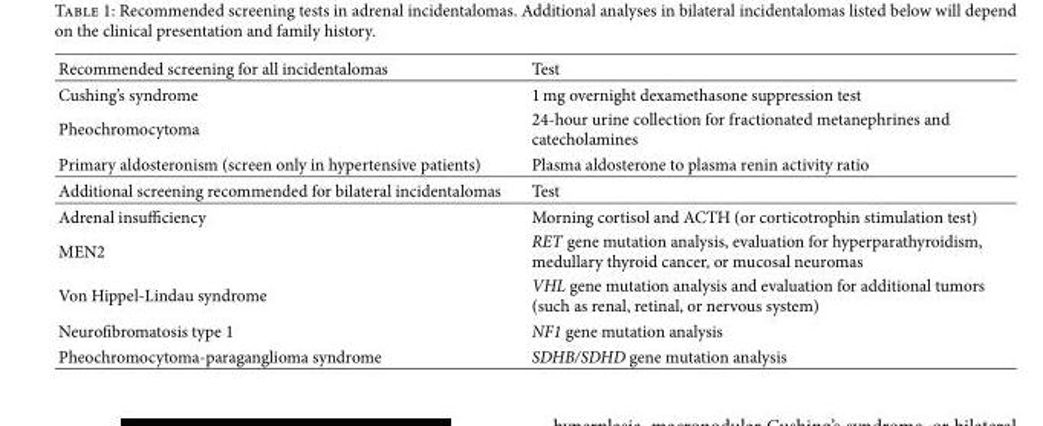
<table><thead><tr><td>Recommended screening for all incidentalomas</td><td>Test</td></tr></thead><tbody><tr><td>Cushing’s syndrome</td><td>1 mg overnight dexamethasone suppression test</td></tr><tr><td>Pheochromocytoma</td><td>24-hour urine collection for fractionated metanephrines and catecholamines</td></tr><tr><td>Primary aldosteronism (screen only in hypertensive patients)</td><td>Plasma aldosterone to plasma renin activity ratio</td></tr><tr><td>Additional screening recommended for bilateral incidentalomas</td><td>Test</td></tr><tr><td>Adrenal insufficiency</td><td>Morning cortisol and ACTH (or corticotrophin stimulation test)</td></tr><tr><td>MEN2</td><td>RET gene mutation analysis, evaluation for hyperparathyroidism, medullary thyroid cancer, or mucosal neuromas</td></tr><tr><td>Von Hippel-Lindau syndrome</td><td>VHL gene mutation analysis and evaluation for additional tumors (such as renal, retinal, or nervous system)</td></tr><tr><td>Neuro�bromatosis type 1</td><td>NF1 gene mutation analysis</td></tr><tr><td>Pheochromocytoma-paraganglioma syndrome</td><td>SDHB/SDHD gene mutation analysis</td></tr></tbody></table>